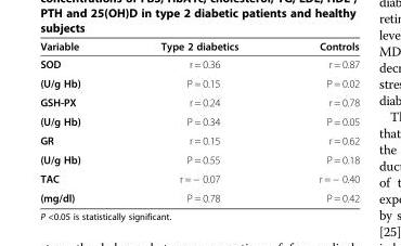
<table><thead><tr><td>Variable</td><td>Type 2 diabetics</td><td>Controls</td></tr></thead><tbody><tr><td>SOD</td><td>r = 0.36</td><td>r = 0.87</td></tr><tr><td>(U/g Hb)</td><td>P = 0.15</td><td>P = 0.02</td></tr><tr><td>GSH-PX</td><td>r = 0.24</td><td>r = 0.78</td></tr><tr><td>(U/g Hb)</td><td>P = 0.34</td><td>P = 0.05</td></tr><tr><td>GR</td><td>r = 0.15</td><td>r = 0.62</td></tr><tr><td>(U/g Hb)</td><td>P = 0.55</td><td>P = 0.18</td></tr><tr><td>TAC</td><td>r = − 0.07</td><td>r = − 0.40</td></tr><tr><td>(mg/dl)</td><td>P = 0.78</td><td>P = 0.42</td></tr></tbody></table>